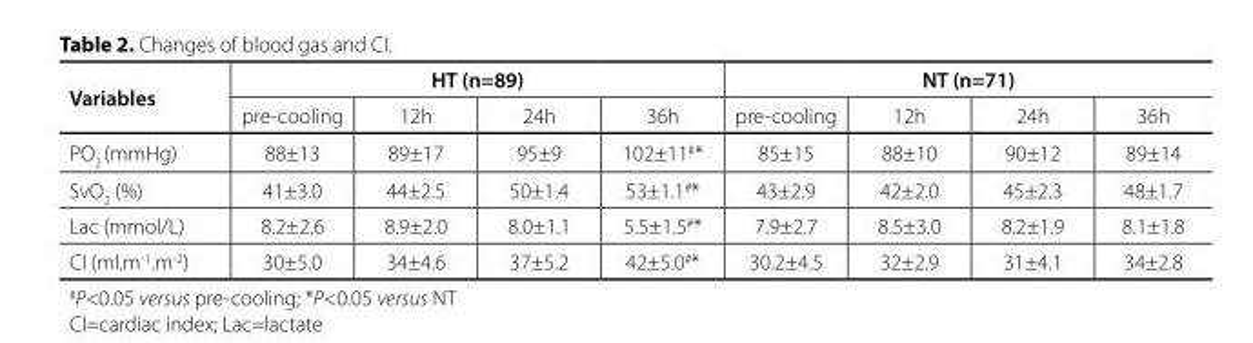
<table><thead><tr><td rowspan="2">Variables</td><td colspan="4">HT (n=89)</td><td colspan="4">NT (n=71)</td></tr><tr><td>pre-cooling</td><td>12h</td><td>24h</td><td>36h</td><td>pre-cooling</td><td>12h</td><td>24h</td><td>36h</td></tr></thead><tbody><tr><td>PO<sub>2</sub> (mmHg)</td><td>88±13</td><td>89±17</td><td>95±9</td><td>102±11#*</td><td>85±15</td><td>88±10</td><td>90±12</td><td>89±14</td></tr><tr><td>SvO<sub>2</sub> (%)</td><td>41±3.0</td><td>44±2.5</td><td>50±1.4</td><td>53±1.1#*</td><td>43±2.9</td><td>42±2.0</td><td>45±2.3</td><td>48±1.7</td></tr><tr><td>Lac (mmol/L)</td><td>8.2±2.6</td><td>8.9±2.0</td><td>8.0±1.1</td><td>5.5±1.5#*</td><td>7.9±2.7</td><td>8.5±3.0</td><td>8.2±1.9</td><td>8.1±1.8</td></tr><tr><td>CI (ml.m<sup>-1</sup>.m<sup>-2</sup>)</td><td>30±5.0</td><td>34±4.6</td><td>37±5.2</td><td>42±5.0#*</td><td>30.2±4.5</td><td>32±2.9</td><td>31±4.1</td><td>34±2.8</td></tr></tbody></table>